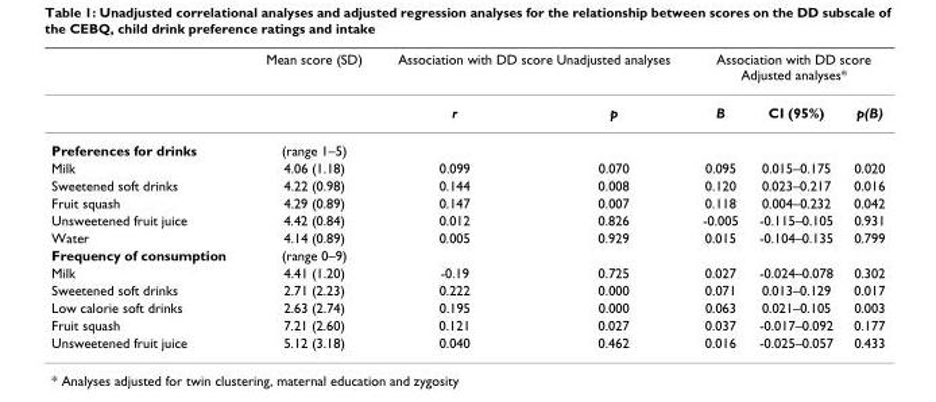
<table><thead><tr><td rowspan="2"></td><td rowspan="2">Mean score (SD)</td><td colspan="2">Association with DD score Unadjusted analyses</td><td colspan="3">Association with DD score Adjusted analyses*</td></tr><tr><td>r</td><td>p</td><td>B</td><td>CI (95%)</td><td>p(B)</td></tr></thead><tbody><tr><td>Preferences for drinks</td><td>(range 1–5)</td><td></td><td></td><td></td><td></td><td></td></tr><tr><td>Milk</td><td>4.06 (1.18)</td><td>0.099</td><td>0.070</td><td>0.095</td><td>0.015–0.175</td><td>0.020</td></tr><tr><td>Sweetened soft drinks</td><td>4.22 (0.98)</td><td>0.144</td><td>0.008</td><td>0.120</td><td>0.023–0.217</td><td>0.016</td></tr><tr><td>Fruit squash</td><td>4.29 (0.89)</td><td>0.147</td><td>0.007</td><td>0.118</td><td>0.004–0.232</td><td>0.042</td></tr><tr><td>Unsweetened fruit juice</td><td>4.42 (0.84)</td><td>0.012</td><td>0.826</td><td>-0.005</td><td>-0.115–0.105</td><td>0.931</td></tr><tr><td>Water</td><td>4.14 (0.89)</td><td>0.005</td><td>0.929</td><td>0.015</td><td>-0.104–0.135</td><td>0.799</td></tr><tr><td>Frequency of consumption</td><td>(range 0–9)</td><td></td><td></td><td></td><td></td><td></td></tr><tr><td>Milk</td><td>4.41 (1.20)</td><td>-0.19</td><td>0.725</td><td>0.027</td><td>-0.024–0.078</td><td>0.302</td></tr><tr><td>Sweetened soft drinks</td><td>2.71 (2.23)</td><td>0.222</td><td>0.000</td><td>0.071</td><td>0.013–0.129</td><td>0.017</td></tr><tr><td>Low calorie soft drinks</td><td>2.63 (2.74)</td><td>0.195</td><td>0.000</td><td>0.063</td><td>0.021–0.105</td><td>0.003</td></tr><tr><td>Fruit squash</td><td>7.21 (2.60)</td><td>0.121</td><td>0.027</td><td>0.037</td><td>-0.017–0.092</td><td>0.177</td></tr><tr><td>Unsweetened fruit juice</td><td>5.12 (3.18)</td><td>0.040</td><td>0.462</td><td>0.016</td><td>-0.025–0.057</td><td>0.433</td></tr></tbody></table>